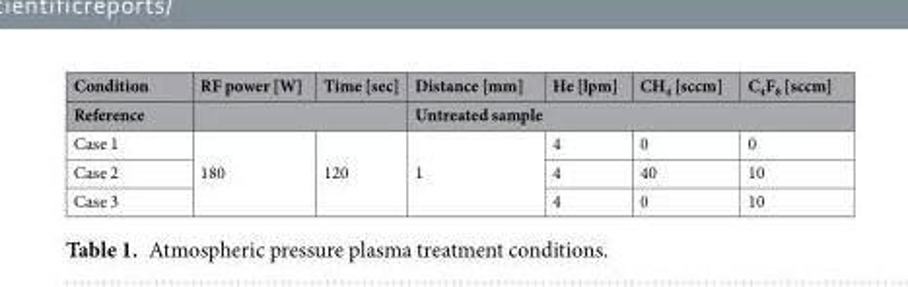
<table><thead><tr><td rowspan="2">Condition Reference</td><td rowspan="2">RF power [W]</td><td rowspan="2">Time [sec]</td><td>Distance [mm]</td><td>He [lpm]</td><td>CH<sub>4</sub> [sccm]</td><td>C<sub>4</sub>F<sub>8</sub> [sccm]</td></tr><tr><td colspan="4">Untreated sample</td></tr></thead><tbody><tr><td>Case 1</td><td rowspan="3">180</td><td rowspan="3">120</td><td rowspan="3">1</td><td>4</td><td>0</td><td>0</td></tr><tr><td>Case 2</td><td>4</td><td>40</td><td>10</td></tr><tr><td>Case 3</td><td>4</td><td>0</td><td>10</td></tr></tbody></table>